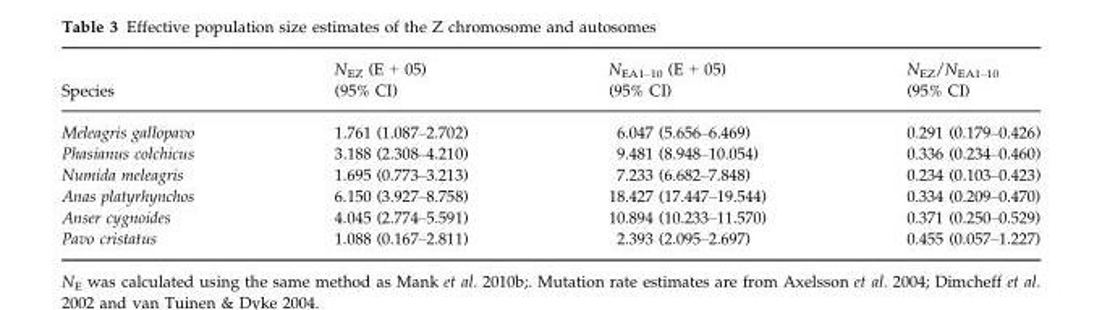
<table><thead><tr><td>Species</td><td>N<sub>EZ</sub> (E + 05) (95% CI)</td><td>N<sub>EA1–10</sub> (E + 05) (95% CI)</td><td>N<sub>EZ</sub>/N<sub>EA1–10</sub> (95% CI)</td></tr></thead><tbody><tr><td>Meleagris gallopavo</td><td>1.761 (1.087–2.702)</td><td>6.047 (5.656–6.469)</td><td>0.291 (0.179–0.426)</td></tr><tr><td>Phasianus colchicus</td><td>3.188 (2.308–4.210)</td><td>9.481 (8.948–10.054)</td><td>0.336 (0.234–0.460)</td></tr><tr><td>Numida meleagris</td><td>1.695 (0.773–3.213)</td><td>7.233 (6.682–7.848)</td><td>0.234 (0.103–0.423)</td></tr><tr><td>Anas platyrhynchos</td><td>6.150 (3.927–8.758)</td><td>18.427 (17.447–19.544)</td><td>0.334 (0.209–0.470)</td></tr><tr><td>Anser cygnoides</td><td>4.045 (2.774–5.591)</td><td>10.894 (10.233–11.570)</td><td>0.371 (0.250–0.529)</td></tr><tr><td>Pavo cristatus</td><td>1.088 (0.167–2.811)</td><td>2.393 (2.095–2.697)</td><td>0.455 (0.057–1.227)</td></tr></tbody></table>